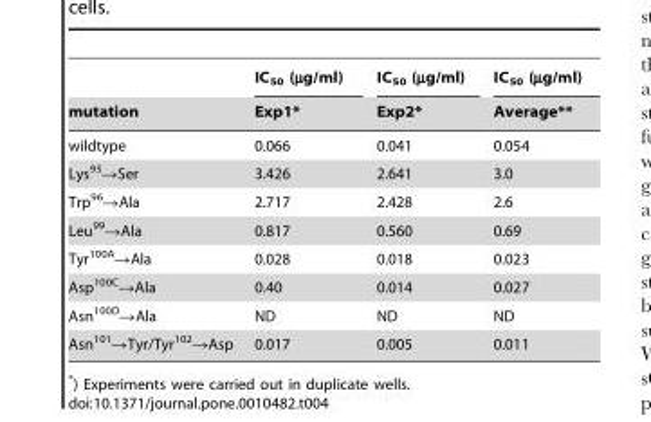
<table><thead><tr><td rowspan="2">mutation</td><td rowspan="2">IC<sub>50</sub> (µg/ml) Exp1*</td><td rowspan="2">IC<sub>50</sub> (µg/ml) Exp2*</td><td rowspan="2">IC<sub>50</sub> (µg/ml) Average**</td></tr><tr></tr></thead><tbody><tr><td>wildtype</td><td>0.066</td><td>0.041</td><td>0.054</td></tr><tr><td>Lys<sup>95</sup>→Ser</td><td>3.426</td><td>2.641</td><td>3.0</td></tr><tr><td>Trp<sup>96</sup>→Ala</td><td>2.717</td><td>2.428</td><td>2.6</td></tr><tr><td>Leu<sup>99</sup>→Ala</td><td>0.817</td><td>0.560</td><td>0.69</td></tr><tr><td>Tyr<sup>100A</sup>→Ala</td><td>0.028</td><td>0.018</td><td>0.023</td></tr><tr><td>Asp<sup>100C</sup>→Ala</td><td>0.40</td><td>0.014</td><td>0.027</td></tr><tr><td>Asn<sup>100D</sup>→Ala</td><td>ND</td><td>ND</td><td>ND</td></tr><tr><td>Asn<sup>101</sup>→Tyr/Tyr<sup>102</sup>→Asp</td><td>0.017</td><td>0.005</td><td>0.011</td></tr></tbody></table>